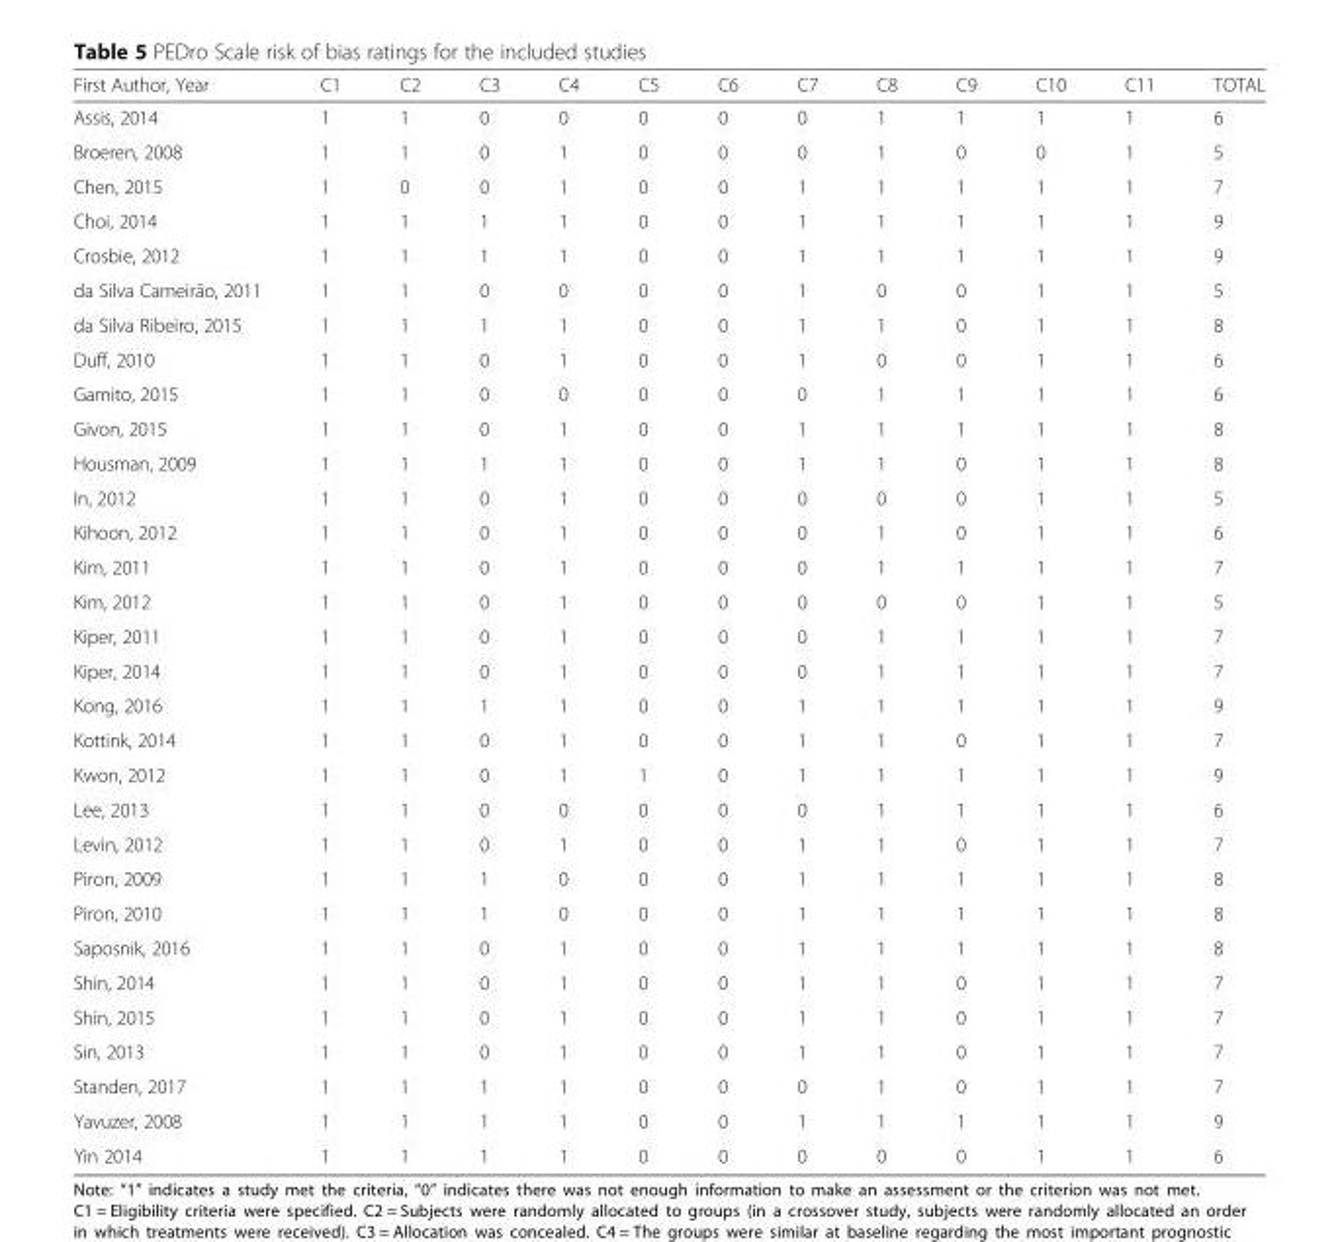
<table><thead><tr><td>First Author, Year</td><td>C1</td><td>C2</td><td>C3</td><td>C4</td><td>C5</td><td>C6</td><td>C7</td><td>C8</td><td>C9</td><td>C10</td><td>C11</td><td>TOTAL</td></tr></thead><tbody><tr><td>Assis, 2014</td><td>1</td><td>1</td><td>0</td><td>0</td><td>0</td><td>0</td><td>0</td><td>1</td><td>1</td><td>1</td><td>1</td><td>6</td></tr><tr><td>Broeren, 2008</td><td>1</td><td>1</td><td>0</td><td>1</td><td>0</td><td>0</td><td>0</td><td>1</td><td>0</td><td>0</td><td>1</td><td>5</td></tr><tr><td>Chen, 2015</td><td>1</td><td>0</td><td>0</td><td>1</td><td>0</td><td>0</td><td>1</td><td>1</td><td>1</td><td>1</td><td>1</td><td>7</td></tr><tr><td>Choi, 2014</td><td>1</td><td>1</td><td>1</td><td>1</td><td>0</td><td>0</td><td>1</td><td>1</td><td>1</td><td>1</td><td>1</td><td>9</td></tr><tr><td>Crosbie, 2012</td><td>1</td><td>1</td><td>1</td><td>1</td><td>0</td><td>0</td><td>1</td><td>1</td><td>1</td><td>1</td><td>1</td><td>9</td></tr><tr><td>da Silva Cameirão, 2011</td><td>1</td><td>1</td><td>0</td><td>0</td><td>0</td><td>0</td><td>1</td><td>0</td><td>0</td><td>1</td><td>1</td><td>5</td></tr><tr><td>da Silva Ribeiro, 2015</td><td>1</td><td>1</td><td>1</td><td>1</td><td>0</td><td>0</td><td>1</td><td>1</td><td>0</td><td>1</td><td>1</td><td>8</td></tr><tr><td>Duff, 2010</td><td>1</td><td>1</td><td>0</td><td>1</td><td>0</td><td>0</td><td>1</td><td>0</td><td>0</td><td>1</td><td>1</td><td>6</td></tr><tr><td>Gamito, 2015</td><td>1</td><td>1</td><td>0</td><td>0</td><td>0</td><td>0</td><td>0</td><td>1</td><td>1</td><td>1</td><td>1</td><td>6</td></tr><tr><td>Givon, 2015</td><td>1</td><td>1</td><td>0</td><td>1</td><td>0</td><td>0</td><td>1</td><td>1</td><td>1</td><td>1</td><td>1</td><td>8</td></tr><tr><td>Housman, 2009</td><td>1</td><td>1</td><td>1</td><td>1</td><td>0</td><td>0</td><td>1</td><td>1</td><td>0</td><td>1</td><td>1</td><td>8</td></tr><tr><td>In, 2012</td><td>1</td><td>1</td><td>0</td><td>1</td><td>0</td><td>0</td><td>0</td><td>0</td><td>0</td><td>1</td><td>1</td><td>5</td></tr><tr><td>Kihoon, 2012</td><td>1</td><td>1</td><td>0</td><td>1</td><td>0</td><td>0</td><td>0</td><td>1</td><td>0</td><td>1</td><td>1</td><td>6</td></tr><tr><td>Kim, 2011</td><td>1</td><td>1</td><td>0</td><td>1</td><td>0</td><td>0</td><td>0</td><td>1</td><td>1</td><td>1</td><td>1</td><td>7</td></tr><tr><td>Kim, 2012</td><td>1</td><td>1</td><td>0</td><td>1</td><td>0</td><td>0</td><td>0</td><td>0</td><td>0</td><td>1</td><td>1</td><td>5</td></tr><tr><td>Kiper, 2011</td><td>1</td><td>1</td><td>0</td><td>1</td><td>0</td><td>0</td><td>0</td><td>1</td><td>1</td><td>1</td><td>1</td><td>7</td></tr><tr><td>Kiper, 2014</td><td>1</td><td>1</td><td>0</td><td>1</td><td>0</td><td>0</td><td>0</td><td>1</td><td>1</td><td>1</td><td>1</td><td>7</td></tr><tr><td>Kong, 2016</td><td>1</td><td>1</td><td>1</td><td>1</td><td>0</td><td>0</td><td>1</td><td>1</td><td>1</td><td>1</td><td>1</td><td>9</td></tr><tr><td>Kottink, 2014</td><td>1</td><td>1</td><td>0</td><td>1</td><td>0</td><td>0</td><td>1</td><td>1</td><td>0</td><td>1</td><td>1</td><td>7</td></tr><tr><td>Kwon, 2012</td><td>1</td><td>1</td><td>0</td><td>1</td><td>1</td><td>0</td><td>1</td><td>1</td><td>1</td><td>1</td><td>1</td><td>9</td></tr><tr><td>Lee, 2013</td><td>1</td><td>1</td><td>0</td><td>0</td><td>0</td><td>0</td><td>0</td><td>1</td><td>1</td><td>1</td><td>1</td><td>6</td></tr><tr><td>Levin, 2012</td><td>1</td><td>1</td><td>0</td><td>1</td><td>0</td><td>0</td><td>1</td><td>1</td><td>0</td><td>1</td><td>1</td><td>7</td></tr><tr><td>Piron, 2009</td><td>1</td><td>1</td><td>1</td><td>0</td><td>0</td><td>0</td><td>1</td><td>1</td><td>1</td><td>1</td><td>1</td><td>8</td></tr><tr><td>Piron, 2010</td><td>1</td><td>1</td><td>1</td><td>0</td><td>0</td><td>0</td><td>1</td><td>1</td><td>1</td><td>1</td><td>1</td><td>8</td></tr><tr><td>Saposnik, 2016</td><td>1</td><td>1</td><td>0</td><td>1</td><td>0</td><td>0</td><td>1</td><td>1</td><td>1</td><td>1</td><td>1</td><td>8</td></tr><tr><td>Shin, 2014</td><td>1</td><td>1</td><td>0</td><td>1</td><td>0</td><td>0</td><td>1</td><td>1</td><td>0</td><td>1</td><td>1</td><td>7</td></tr><tr><td>Shin, 2015</td><td>1</td><td>1</td><td>0</td><td>1</td><td>0</td><td>0</td><td>1</td><td>1</td><td>0</td><td>1</td><td>1</td><td>7</td></tr><tr><td>Sin, 2013</td><td>1</td><td>1</td><td>0</td><td>1</td><td>0</td><td>0</td><td>1</td><td>1</td><td>0</td><td>1</td><td>1</td><td>7</td></tr><tr><td>Standen, 2017</td><td>1</td><td>1</td><td>1</td><td>1</td><td>0</td><td>0</td><td>0</td><td>1</td><td>0</td><td>1</td><td>1</td><td>7</td></tr><tr><td>Yavuzer, 2008</td><td>1</td><td>1</td><td>1</td><td>1</td><td>0</td><td>0</td><td>1</td><td>1</td><td>1</td><td>1</td><td>1</td><td>9</td></tr><tr><td>Yin 2014</td><td>1</td><td>1</td><td>1</td><td>1</td><td>0</td><td>0</td><td>0</td><td>0</td><td>0</td><td>1</td><td>1</td><td>6</td></tr></tbody></table>